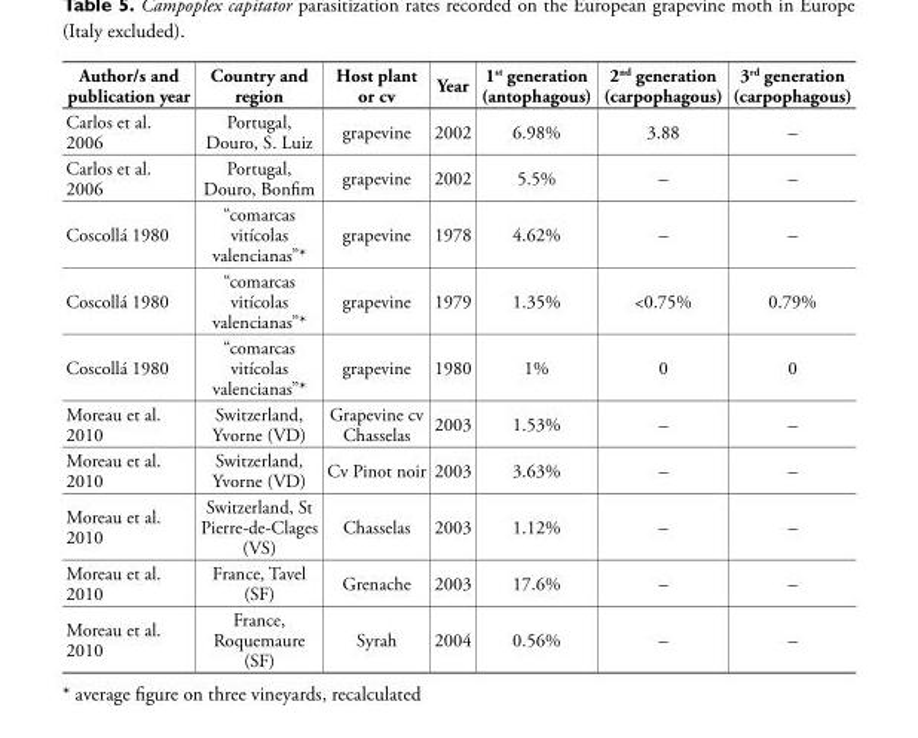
<table><thead><tr><td>Author/s and publication year</td><td>Country and region</td><td>Host plant or cv</td><td>Year</td><td>1<sup>st</sup> generation (antophagous)</td><td>2<sup>nd</sup> generation (carpophagous)</td><td>3<sup>rd</sup> generation (carpophagous)</td></tr></thead><tbody><tr><td>Carlos et al. 2006</td><td>Portugal, Douro, S. Luiz</td><td>grapevine</td><td>2002</td><td>6.98%</td><td>3.88</td><td>–</td></tr><tr><td>Carlos et al. 2006</td><td>Portugal, Douro, Bonfim</td><td>grapevine</td><td>2002</td><td>5.5%</td><td>–</td><td>–</td></tr><tr><td>Coscollá 1980</td><td>“comarcas vitícolas valencianas”*</td><td>grapevine</td><td>1978</td><td>4.62%</td><td>–</td><td>–</td></tr><tr><td>Coscollá 1980</td><td>“comarcas vitícolas valencianas”*</td><td>grapevine</td><td>1979</td><td>1.35%</td><td>&lt;0.75%</td><td>0.79%</td></tr><tr><td>Coscollá 1980</td><td>“comarcas vitícolas valencianas”*</td><td>grapevine</td><td>1980</td><td>1%</td><td>0</td><td>0</td></tr><tr><td>Moreau et al. 2010</td><td>Switzerland, Yvorne (VD)</td><td>Grapevine cv Chasselas</td><td>2003</td><td>1.53%</td><td>–</td><td>–</td></tr><tr><td>Moreau et al. 2010</td><td>Switzerland, Yvorne (VD)</td><td>Cv Pinot noir</td><td>2003</td><td>3.63%</td><td>–</td><td>–</td></tr><tr><td>Moreau et al. 2010</td><td>Switzerland, St Pierre-de-Clages (VS)</td><td>Chasselas</td><td>2003</td><td>1.12%</td><td>–</td><td>–</td></tr><tr><td>Moreau et al. 2010</td><td>France, Tavel (SF)</td><td>Grenache</td><td>2003</td><td>17.6%</td><td>–</td><td>–</td></tr><tr><td>Moreau et al. 2010</td><td>France, Roquemaure (SF)</td><td>Syrah</td><td>2004</td><td>0.56%</td><td>–</td><td>–</td></tr></tbody></table>